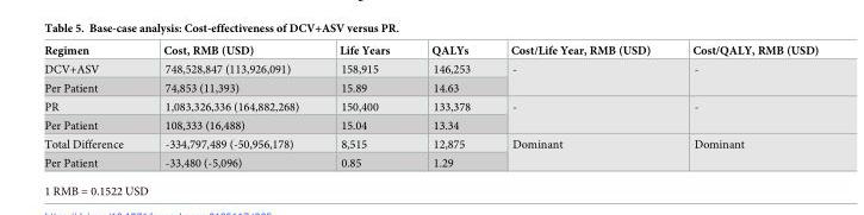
<table><thead><tr><td>Regimen</td><td>Cost, RMB (USD)</td><td>Life Years</td><td>QALYs</td><td>Cost/Life Year, RMB (USD)</td><td>Cost/QALY, RMB (USD)</td></tr></thead><tbody><tr><td>DCV+ASV</td><td>748,528,847 (113,926,091)</td><td>158,915</td><td>146,253</td><td rowspan="2">-</td><td rowspan="2">-</td></tr><tr><td>Per Patient</td><td>74,853 (11,393)</td><td>15.89</td><td>14.63</td></tr><tr><td>PR</td><td>1,083,326,336 (164,882,268)</td><td>150,400</td><td>133,378</td><td rowspan="2">-</td><td rowspan="2">-</td></tr><tr><td>Per Patient</td><td>108,333 (16,488)</td><td>15.04</td><td>13.34</td></tr><tr><td>Total Difference</td><td>-334,797,489 (-50,956,178)</td><td>8,515</td><td>12,875</td><td rowspan="2">Dominant</td><td rowspan="2">Dominant</td></tr><tr><td>Per Patient</td><td>-33,480 (-5,096)</td><td>0.85</td><td>1.29</td></tr></tbody></table>